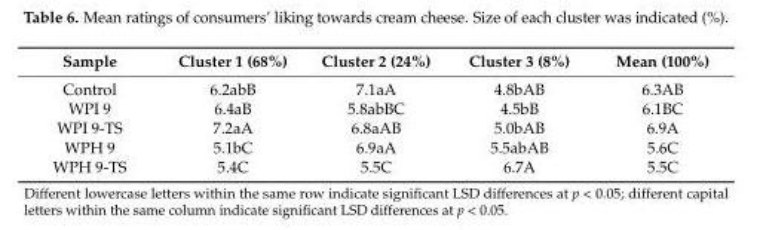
<table><thead><tr><td>Sample</td><td>Cluster 1 (68%)</td><td>Cluster 2 (24%)</td><td>Cluster 3 (8%)</td><td>Mean (100%)</td></tr></thead><tbody><tr><td>Control</td><td>6.2abB</td><td>7.1aA</td><td>4.8bAB</td><td>6.3AB</td></tr><tr><td>WPI 9</td><td>6.4aB</td><td>5.8abBC</td><td>4.5bB</td><td>6.1BC</td></tr><tr><td>WPI 9-TS</td><td>7.2aA</td><td>6.8aAB</td><td>5.0bAB</td><td>6.9A</td></tr><tr><td>WPH 9</td><td>5.1bC</td><td>6.9aA</td><td>5.5abAB</td><td>5.6C</td></tr><tr><td>WPH 9-TS</td><td>5.4C</td><td>5.5C</td><td>6.7A</td><td>5.5C</td></tr></tbody></table>